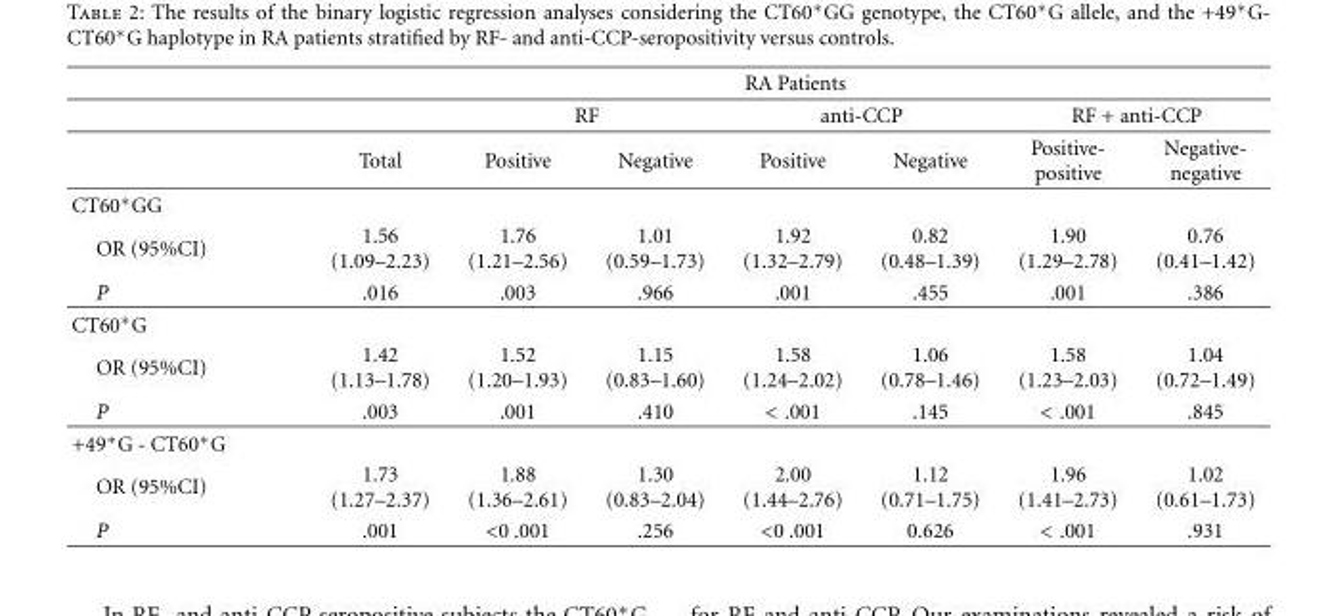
<table><thead><tr><td rowspan="3"></td><td colspan="7">RA Patients</td></tr><tr><td rowspan="2">Total</td><td colspan="2">RF</td><td colspan="2">anti-CCP</td><td colspan="2">RF + anti-CCP</td></tr><tr><td>Positive</td><td>Negative</td><td>Positive</td><td>Negative</td><td>Positive- positive</td><td>Negative- negative</td></tr></thead><tbody><tr><td colspan="8">CT60∗GG</td></tr><tr><td>OR (95%CI)</td><td>1.56 (1.09–2.23)</td><td>1.76 (1.21–2.56)</td><td>1.01 (0.59–1.73)</td><td>1.92 (1.32–2.79)</td><td>0.82 (0.48–1.39)</td><td>1.90 (1.29–2.78)</td><td>0.76 (0.41–1.42)</td></tr><tr><td>P</td><td>.016</td><td>.003</td><td>.966</td><td>.001</td><td>.455</td><td>.001</td><td>.386</td></tr><tr><td colspan="8">CT60∗G</td></tr><tr><td>OR (95%CI)</td><td>1.42 (1.13–1.78)</td><td>1.52 (1.20–1.93)</td><td>1.15 (0.83–1.60)</td><td>1.58 (1.24–2.02)</td><td>1.06 (0.78–1.46)</td><td>1.58 (1.23–2.03)</td><td>1.04 (0.72–1.49)</td></tr><tr><td>P</td><td>.003</td><td>.001</td><td>.410</td><td>&lt; .001</td><td>.145</td><td>&lt; .001</td><td>.845</td></tr><tr><td colspan="8">+49∗G - CT60∗G</td></tr><tr><td>OR (95%CI)</td><td>1.73 (1.27–2.37)</td><td>1.88 (1.36–2.61)</td><td>1.30 (0.83–2.04)</td><td>2.00 (1.44–2.76)</td><td>1.12 (0.71–1.75)</td><td>1.96 (1.41–2.73)</td><td>1.02 (0.61–1.73)</td></tr><tr><td>P</td><td>.001</td><td>&lt;0 .001</td><td>.256</td><td>&lt;0 .001</td><td>0.626</td><td>&lt; .001</td><td>.931</td></tr></tbody></table>